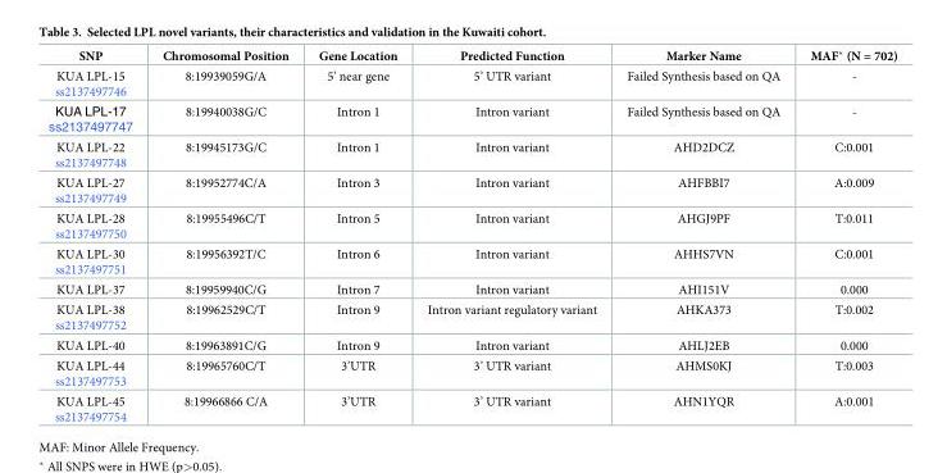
<table><thead><tr><td>SNP</td><td>Chromosomal Position</td><td>Gene Location</td><td>Predicted Function</td><td>Marker Name</td><td>MAF* (N = 702)</td></tr></thead><tbody><tr><td>KUA LPL-15 ss2137497746</td><td>8:19939059G/A</td><td>5’ near gene</td><td>5’ UTR variant</td><td>Failed Synthesis based on QA</td><td>-</td></tr><tr><td>KUA LPL-17 ss2137497747</td><td>8:19940038G/C</td><td>Intron 1</td><td>Intron variant</td><td>Failed Synthesis based on QA</td><td>-</td></tr><tr><td>KUA LPL-22 ss2137497748</td><td>8:19945173G/C</td><td>Intron 1</td><td>Intron variant</td><td>AHD2DCZ</td><td>C:0.001</td></tr><tr><td>KUA LPL-27 ss2137497749</td><td>8:19952774C/A</td><td>Intron 3</td><td>Intron variant</td><td>AHFBBI7</td><td>A:0.009</td></tr><tr><td>KUA LPL-28 ss2137497750</td><td>8:19955496C/T</td><td>Intron 5</td><td>Intron variant</td><td>AHGJ9PF</td><td>T:0.011</td></tr><tr><td>KUA LPL-30 ss2137497751</td><td>8:19956392T/C</td><td>Intron 6</td><td>Intron variant</td><td>AHHS7VN</td><td>C:0.001</td></tr><tr><td>KUA LPL-37</td><td>8:19959940C/G</td><td>Intron 7</td><td>Intron variant</td><td>AHI151V</td><td>0.000</td></tr><tr><td>KUA LPL-38 ss2137497752</td><td>8:19962529C/T</td><td>Intron 9</td><td>Intron variant regulatory variant</td><td>AHKA373</td><td>T:0.002</td></tr><tr><td>KUA LPL-40</td><td>8:19963891C/G</td><td>Intron 9</td><td>Intron variant</td><td>AHLJ2EB</td><td>0.000</td></tr><tr><td>KUA LPL-44 ss2137497753</td><td>8:19965760C/T</td><td>3’UTR</td><td>3’ UTR variant</td><td>AHMS0KJ</td><td>T:0.003</td></tr><tr><td>KUA LPL-45 ss2137497754</td><td>8:19966866 C/A</td><td>3’UTR</td><td>3’ UTR variant</td><td>AHN1YQR</td><td>A:0.001</td></tr></tbody></table>